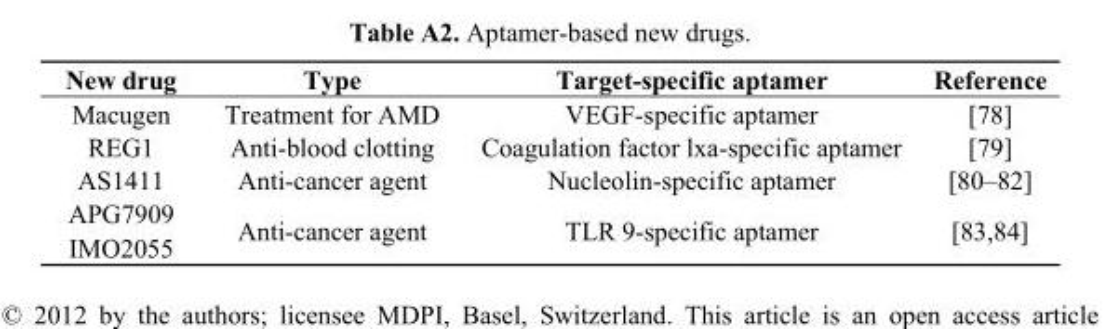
<table><thead><tr><td>New drug</td><td>Type</td><td>Target-specific aptamer</td><td>Reference</td></tr></thead><tbody><tr><td>Macugen</td><td>Treatment for AMD</td><td>VEGF-specific aptamer</td><td>[78]</td></tr><tr><td>REG1</td><td>Anti-blood clotting</td><td>Coagulation factor lxa-specific aptamer</td><td>[79]</td></tr><tr><td>AS1411</td><td>Anti-cancer agent</td><td>Nucleolin-specific aptamer</td><td>[80–82]</td></tr><tr><td>APG7909</td><td rowspan="2">Anti-cancer agent</td><td rowspan="2">TLR 9-specific aptamer</td><td rowspan="2">[83,84]</td></tr><tr><td>IMO2055</td></tr></tbody></table>